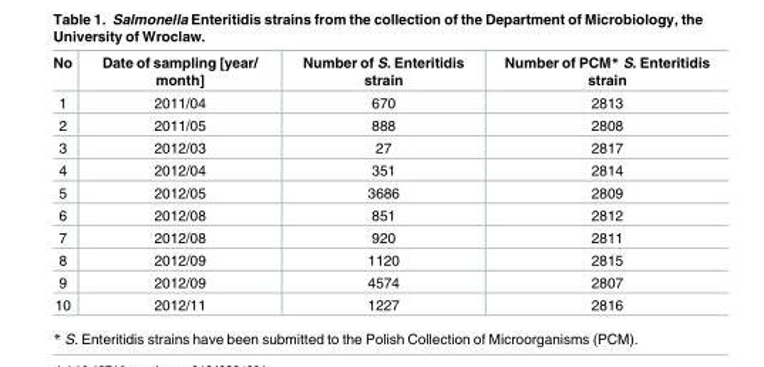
<table><thead><tr><td>No</td><td>Date of sampling [year/ month]</td><td>Number of S. Enteritidis strain</td><td>Number of PCM* S. Enteritidis strain</td></tr></thead><tbody><tr><td>1</td><td>2011/04</td><td>670</td><td>2813</td></tr><tr><td>2</td><td>2011/05</td><td>888</td><td>2808</td></tr><tr><td>3</td><td>2012/03</td><td>27</td><td>2817</td></tr><tr><td>4</td><td>2012/04</td><td>351</td><td>2814</td></tr><tr><td>5</td><td>2012/05</td><td>3686</td><td>2809</td></tr><tr><td>6</td><td>2012/08</td><td>851</td><td>2812</td></tr><tr><td>7</td><td>2012/08</td><td>920</td><td>2811</td></tr><tr><td>8</td><td>2012/09</td><td>1120</td><td>2815</td></tr><tr><td>9</td><td>2012/09</td><td>4574</td><td>2807</td></tr><tr><td>10</td><td>2012/11</td><td>1227</td><td>2816</td></tr></tbody></table>